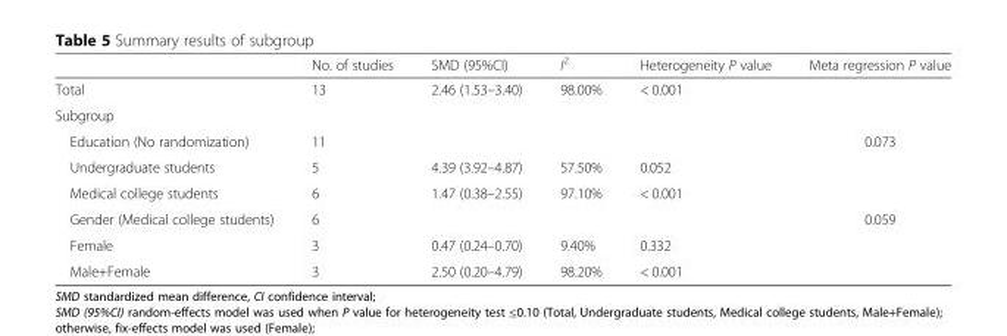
<table><thead><tr><td></td><td>No. of studies</td><td>SMD (95%CI)</td><td>I<sup>2</sup></td><td>Heterogeneity P value</td><td>Meta regression P value</td></tr></thead><tbody><tr><td>Total</td><td>13</td><td>2.46 (1.53–3.40)</td><td>98.00%</td><td>&lt; 0.001</td><td></td></tr><tr><td colspan="6">Subgroup</td></tr><tr><td>Education (No randomization)</td><td>11</td><td></td><td></td><td></td><td>0.073</td></tr><tr><td>Undergraduate students</td><td>5</td><td>4.39 (3.92–4.87)</td><td>57.50%</td><td>0.052</td><td></td></tr><tr><td>Medical college students</td><td>6</td><td>1.47 (0.38–2.55)</td><td>97.10%</td><td>&lt; 0.001</td><td></td></tr><tr><td>Gender (Medical college students)</td><td>6</td><td></td><td></td><td></td><td>0.059</td></tr><tr><td>Female</td><td>3</td><td>0.47 (0.24–0.70)</td><td>9.40%</td><td>0.332</td><td></td></tr><tr><td>Male+Female</td><td>3</td><td>2.50 (0.20–4.79)</td><td>98.20%</td><td>&lt; 0.001</td><td></td></tr></tbody></table>